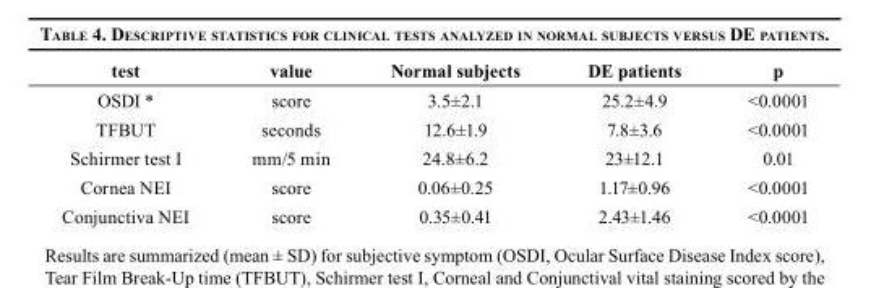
<table><thead><tr><td>test</td><td>value</td><td>Normal subjects</td><td>DE patients</td><td>p</td></tr></thead><tbody><tr><td>OSDI *</td><td>score</td><td>3.5±2.1</td><td>25.2±4.9</td><td>&lt;0.0001</td></tr><tr><td>TFBUT</td><td>seconds</td><td>12.6±1.9</td><td>7.8±3.6</td><td>&lt;0.0001</td></tr><tr><td>Schirmer test I</td><td>mm/5 min</td><td>24.8±6.2</td><td>23±12.1</td><td>0.01</td></tr><tr><td>Cornea NEI</td><td>score</td><td>0.06±0.25</td><td>1.17±0.96</td><td>&lt;0.0001</td></tr><tr><td>Conjunctiva NEI</td><td>score</td><td>0.35±0.41</td><td>2.43±1.46</td><td>&lt;0.0001</td></tr></tbody></table>